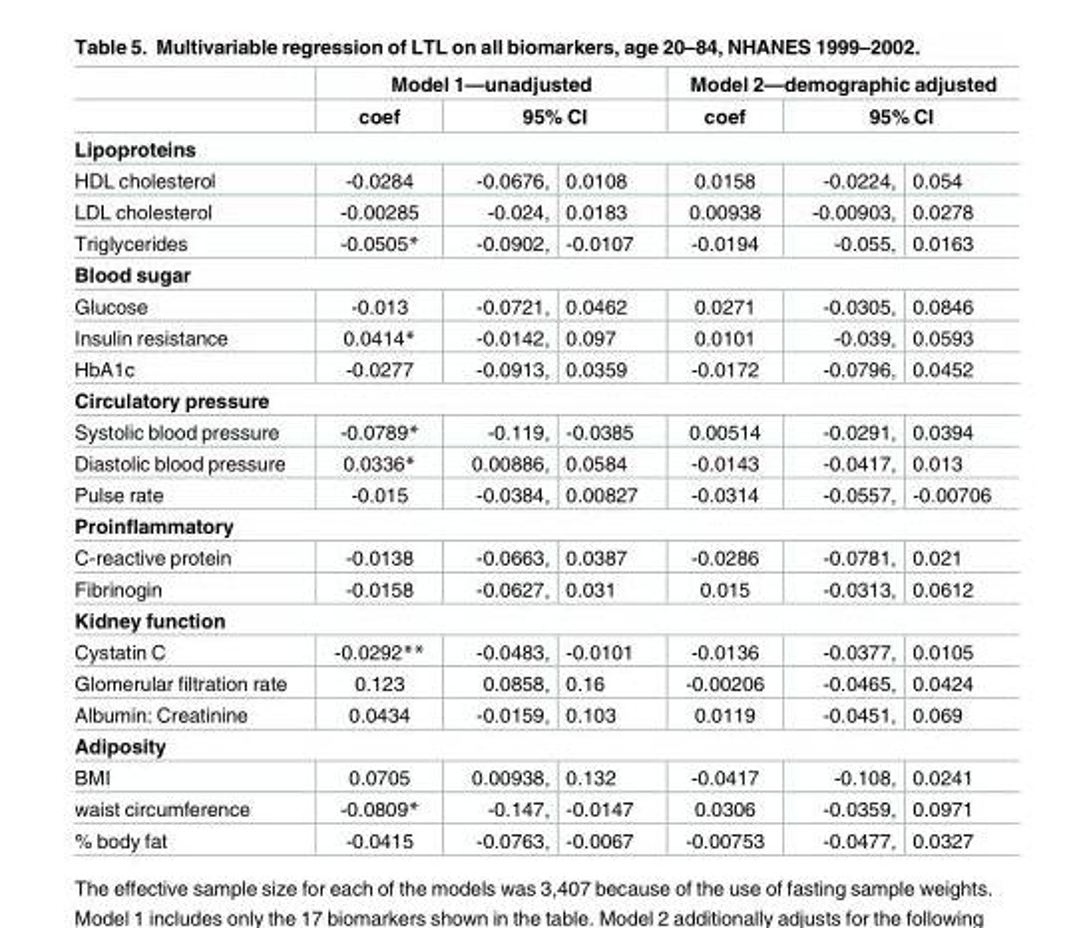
<table><thead><tr><td rowspan="2"></td><td colspan="3">Model 1—unadjusted</td><td colspan="3">Model 2—demographic adjusted</td></tr><tr><td>coef</td><td colspan="2">95% CI</td><td>coef</td><td colspan="2">95% CI</td></tr><tr><td colspan="7">Lipoproteins</td></tr><tr><td>HDL cholesterol</td><td>-0.0284</td><td>-0.0676,</td><td>0.0108</td><td>0.0158</td><td>-0.0224,</td><td>0.054</td></tr></thead><tbody><tr><td>LDL cholesterol</td><td>-0.00285</td><td>-0.024,</td><td>0.0183</td><td>0.00938</td><td>-0.00903,</td><td>0.0278</td></tr><tr><td>Triglycerides</td><td>-0.0505*</td><td>-0.0902,</td><td>-0.0107</td><td>-0.0194</td><td>-0.055,</td><td>0.0163</td></tr><tr><td colspan="7">Blood sugar</td></tr><tr><td>Glucose</td><td>-0.013</td><td>-0.0721,</td><td>0.0462</td><td>0.0271</td><td>-0.0305,</td><td>0.0846</td></tr><tr><td>Insulin resistance</td><td>0.0414*</td><td>-0.0142,</td><td>0.097</td><td>0.0101</td><td>-0.039,</td><td>0.0593</td></tr><tr><td>HbA1c</td><td>-0.0277</td><td>-0.0913,</td><td>0.0359</td><td>-0.0172</td><td>-0.0796,</td><td>0.0452</td></tr><tr><td colspan="7">Circulatory pressure</td></tr><tr><td>Systolic blood pressure</td><td>-0.0789*</td><td>-0.119,</td><td>-0.0385</td><td>0.00514</td><td>-0.0291,</td><td>0.0394</td></tr><tr><td>Diastolic blood pressure</td><td>0.0336*</td><td>0.00886,</td><td>0.0584</td><td>-0.0143</td><td>-0.0417,</td><td>0.013</td></tr><tr><td>Pulse rate</td><td>-0.015</td><td>-0.0384,</td><td>0.00827</td><td>-0.0314</td><td>-0.0557,</td><td>-0.00706</td></tr><tr><td colspan="7">Proinflammatory</td></tr><tr><td>C-reactive protein</td><td>-0.0138</td><td>-0.0663,</td><td>0.0387</td><td>-0.0286</td><td>-0.0781,</td><td>0.021</td></tr><tr><td>Fibrinogin</td><td>-0.0158</td><td>-0.0627,</td><td>0.031</td><td>0.015</td><td>-0.0313,</td><td>0.0612</td></tr><tr><td colspan="7">Kidney function</td></tr><tr><td>Cystatin C</td><td>-0.0292**</td><td>-0.0483,</td><td>-0.0101</td><td>-0.0136</td><td>-0.0377,</td><td>0.0105</td></tr><tr><td>Glomerular filtration rate</td><td>0.123</td><td>0.0858,</td><td>0.16</td><td>-0.00206</td><td>-0.0465,</td><td>0.0424</td></tr><tr><td>Albumin: Creatinine</td><td>0.0434</td><td>-0.0159,</td><td>0.103</td><td>0.0119</td><td>-0.0451,</td><td>0.069</td></tr><tr><td colspan="7">Adiposity</td></tr><tr><td>BMI</td><td>0.0705</td><td>0.00938,</td><td>0.132</td><td>-0.0417</td><td>-0.108,</td><td>0.0241</td></tr><tr><td>waist circumference</td><td>-0.0809*</td><td>-0.147,</td><td>-0.0147</td><td>0.0306</td><td>-0.0359,</td><td>0.0971</td></tr><tr><td>% body fat</td><td>-0.0415</td><td>-0.0763,</td><td>-0.0067</td><td>-0.00753</td><td>-0.0477,</td><td>0.0327</td></tr></tbody></table>